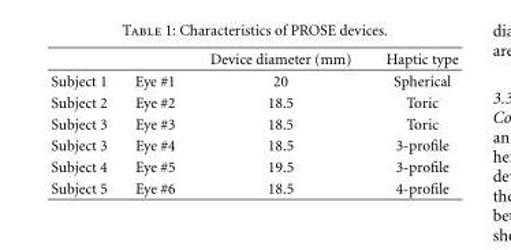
<table><thead><tr><td></td><td></td><td>Device diameter (mm)</td><td>Haptic type</td></tr></thead><tbody><tr><td>Subject 1</td><td>Eye #1</td><td>20</td><td>Spherical</td></tr><tr><td>Subject 2</td><td>Eye #2</td><td>18.5</td><td>Toric</td></tr><tr><td>Subject 3</td><td>Eye #3</td><td>18.5</td><td>Toric</td></tr><tr><td>Subject 3</td><td>Eye #4</td><td>18.5</td><td>3-profile</td></tr><tr><td>Subject 4</td><td>Eye #5</td><td>19.5</td><td>3-profile</td></tr><tr><td>Subject 5</td><td>Eye #6</td><td>18.5</td><td>4-profile</td></tr></tbody></table>